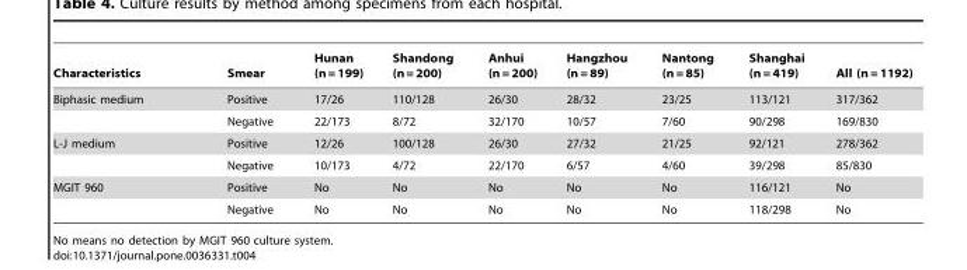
<table><thead><tr><td>Characteristics</td><td>Smear</td><td>Hunan (n = 199)</td><td>Shandong (n = 200)</td><td>Anhui (n = 200)</td><td>Hangzhou (n = 89)</td><td>Nantong (n = 85)</td><td>Shanghai (n = 419)</td><td>All (n = 1192)</td></tr></thead><tbody><tr><td rowspan="2">Biphasic medium</td><td>Positive</td><td>17/26</td><td>110/128</td><td>26/30</td><td>28/32</td><td>23/25</td><td>113/121</td><td>317/362</td></tr><tr><td>Negative</td><td>22/173</td><td>8/72</td><td>32/170</td><td>10/57</td><td>7/60</td><td>90/298</td><td>169/830</td></tr><tr><td rowspan="2">L-J medium</td><td>Positive</td><td>12/26</td><td>100/128</td><td>26/30</td><td>27/32</td><td>21/25</td><td>92/121</td><td>278/362</td></tr><tr><td>Negative</td><td>10/173</td><td>4/72</td><td>22/170</td><td>6/57</td><td>4/60</td><td>39/298</td><td>85/830</td></tr><tr><td rowspan="2">MGIT 960</td><td>Positive</td><td>No</td><td>No</td><td>No</td><td>No</td><td>No</td><td>116/121</td><td>No</td></tr><tr><td>Negative</td><td>No</td><td>No</td><td>No</td><td>No</td><td>No</td><td>118/298</td><td>No</td></tr></tbody></table>